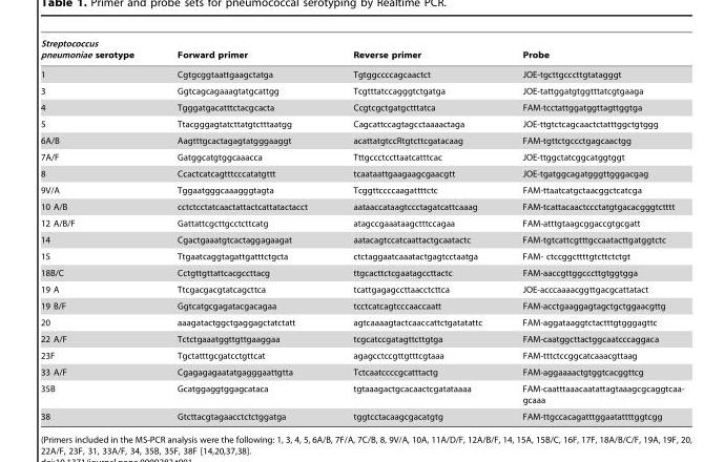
<table><thead><tr><td>Streptococcus pneumoniae serotype</td><td>Forward primer</td><td>Reverse primer</td><td>Probe</td></tr></thead><tbody><tr><td>1</td><td>Cgtgcggtaattgaagctatga</td><td>Tgtggccccagcaactct</td><td>JOE-tgcttgcccttgtatagggt</td></tr><tr><td>3</td><td>Ggtcagcagaaagtatgcattgg</td><td>Tcgtttatccagggtctgatga</td><td>JOE-tattggatgtggtttatcgtgaaga</td></tr><tr><td>4</td><td>Tgggatgacatttctacgcacta</td><td>Ccgtcgctgatgctttatca</td><td>FAM-tcctattggatggttagttggtga</td></tr><tr><td>5</td><td>Ttacgggagtatcttatgtctttaatgg</td><td>Cagcattccagtagcctaaaactaga</td><td>JOE-ttgtctcagcaactctatttggctgtggg</td></tr><tr><td>6A/B</td><td>Aagtttgcactagagtatgggaaggt</td><td>acattatgtccRtgtcttcgatacaag</td><td>FAM-tgttctgccctgagcaactgg</td></tr><tr><td>7A/F</td><td>Gatggcatgtggcaaacca</td><td>Tttgccctccttaatcatttcac</td><td>JOE-ttggctatcggcatggtggt</td></tr><tr><td>8</td><td>Ccactcatcagtttcccatatgttt</td><td>tcaataattgaagaagcgaacgtt</td><td>JOE-tgatggcagatgggttgggacgag</td></tr><tr><td>9V/A</td><td>Tggaatgggcaaagggtagta</td><td>Tcggttccccaagattttctc</td><td>FAM-ttaatcatgctaacggctcatcga</td></tr><tr><td>10 A/B</td><td>cctctcctatcaactattactcattatactacct</td><td>aataaccataagtccctagatcattcaaag</td><td>FAM-tcattacaactccctatgtgacacgggtctttt</td></tr><tr><td>12 A/B/F</td><td>Gattattcgcttgcctcttcatg</td><td>atagccgaaataagctttccagaa</td><td>FAM-atttgtaagcggaccgtgcgatt</td></tr><tr><td>14</td><td>Cgactgaaatgtcactaggagaagat</td><td>aatacagtccatcaattactgcaatactc</td><td>FAM-tgtcattcgtttgccaatacttgatggtctc</td></tr><tr><td>15</td><td>Ttgaatcaggtagattgatttctgcta</td><td>ctctaggaatcaaatactgagtcctaatga</td><td>FAM- ctccggcttttgtcttctctgt</td></tr><tr><td>18B/C</td><td>Cctgttgttattcacgccttacg</td><td>ttgcacttctcgaatagccttactc</td><td>FAM-aaccgttggcccttgtggtgga</td></tr><tr><td>19 A</td><td>Ttcgacgacgtatcagcttca</td><td>tcattgagagccttaacctcttca</td><td>JOE-acccaaaacggttgacgcattatact</td></tr><tr><td>19 B/F</td><td>Ggtcatgcgagatacgacagaa</td><td>tcctcatcagtcccaaccaatt</td><td>FAM-acctgaaggagtagctgctggaacgttg</td></tr><tr><td>20</td><td>aaagatactggctgaggagctatctatt</td><td>agtcaaaagtactcaaccattctgatatattc</td><td>FAM-aggataaggtctactttgtgggagttc</td></tr><tr><td>22 A/F</td><td>Tctctgaaatggttgttgaaggaa</td><td>tcgcatccgatagttcttgtga</td><td>FAM-caatggcttactggcaatcccaggaca</td></tr><tr><td>23F</td><td>Tgctatttgcgatcctgttcat</td><td>agagcctccgttgtttcgtaaa</td><td>FAM-tttctccggcatcaaacgttaag</td></tr><tr><td>33 A/F</td><td>Cgagagagaatatgagggaattgtta</td><td>Tctcaatccccgcatttactg</td><td>FAM-aggaaaactgtggtcacggttcg</td></tr><tr><td>35B</td><td>Gcatggaggtggagcataca</td><td>tgtaaagactgcacaactcgatataaaa</td><td>FAM-caatttaaacaatattagtaaagcgcaggtcaa- gcaaa</td></tr><tr><td>38</td><td>Gtcttacgtagaacctctctggatga</td><td>tggtcctacaagcgacatgtg</td><td>FAM-ttgccacagatttggaatattttggtcgg</td></tr></tbody></table>